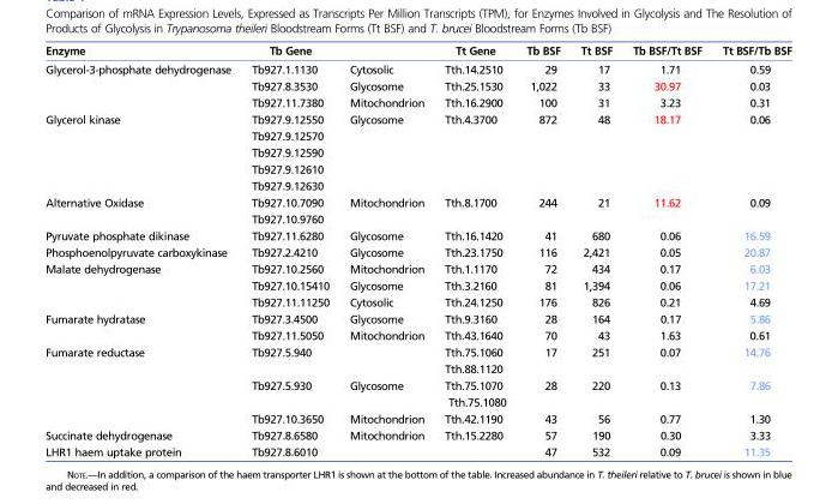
<table><thead><tr><td>Enzyme</td><td>Tb Gene</td><td></td><td>Tt Gene</td><td>Tb BSF</td><td>Tt BSF</td><td>Tb BSF/Tt BSF</td><td>Tt BSF/Tb BSF</td></tr></thead><tbody><tr><td rowspan="3">Glycerol-3-phosphate dehydrogenase</td><td>Tb927.1.1130</td><td>Cytosolic</td><td>Tth.14.2510</td><td>29</td><td>17</td><td>1.71</td><td>0.59</td></tr><tr><td>Tb927.8.3530</td><td>Glycosome</td><td>Tth.25.1530</td><td>1,022</td><td>33</td><td>30.97</td><td>0.03</td></tr><tr><td>Tb927.11.7380</td><td>Mitochondrion</td><td>Tth.16.2900</td><td>100</td><td>31</td><td>3.23</td><td>0.31</td></tr><tr><td rowspan="5">Glycerol kinase</td><td>Tb927.9.12550</td><td>Glycosome</td><td>Tth.4.3700</td><td>872</td><td>48</td><td>18.17</td><td>0.06</td></tr><tr><td>Tb927.9.12570</td><td></td><td></td><td></td><td></td><td></td><td></td></tr><tr><td>Tb927.9.12590</td><td></td><td></td><td></td><td></td><td></td><td></td></tr><tr><td>Tb927.9.12610</td><td></td><td></td><td></td><td></td><td></td><td></td></tr><tr><td>Tb927.9.12630</td><td></td><td></td><td></td><td></td><td></td><td></td></tr><tr><td rowspan="2">Alternative Oxidase</td><td>Tb927.10.7090</td><td>Mitochondrion</td><td>Tth.8.1700</td><td>244</td><td>21</td><td>11.62</td><td>0.09</td></tr><tr><td>Tb927.10.9760</td><td></td><td></td><td></td><td></td><td></td><td></td></tr><tr><td>Pyruvate phosphate dikinase</td><td>Tb927.11.6280</td><td>Glycosome</td><td>Tth.16.1420</td><td>41</td><td>680</td><td>0.06</td><td>16.59</td></tr><tr><td>Phosphoenolpyruvate carboxykinase</td><td>Tb927.2.4210</td><td>Glycosome</td><td>Tth.23.1750</td><td>116</td><td>2,421</td><td>0.05</td><td>20.87</td></tr><tr><td rowspan="3">Malate dehydrogenase</td><td>Tb927.10.2560</td><td>Mitochondrion</td><td>Tth.1.1170</td><td>72</td><td>434</td><td>0.17</td><td>6.03</td></tr><tr><td>Tb927.10.15410</td><td>Glycosome</td><td>Tth.3.2160</td><td>81</td><td>1,394</td><td>0.06</td><td>17.21</td></tr><tr><td>Tb927.11.11250</td><td>Cytosolic</td><td>Tth.24.1250</td><td>176</td><td>826</td><td>0.21</td><td>4.69</td></tr><tr><td rowspan="2">Fumarate hydratase</td><td>Tb927.3.4500</td><td>Glycosome</td><td>Tth.9.3160</td><td>28</td><td>164</td><td>0.17</td><td>5.86</td></tr><tr><td>Tb927.11.5050</td><td>Mitochondrion</td><td>Tth.43.1640</td><td>70</td><td>43</td><td>1.63</td><td>0.61</td></tr><tr><td rowspan="5">Fumarate reductase</td><td>Tb927.5.940</td><td></td><td>Tth.75.1060</td><td>17</td><td>251</td><td>0.07</td><td>14.76</td></tr><tr><td></td><td></td><td>Tth.88.1120</td><td></td><td></td><td></td><td></td></tr><tr><td>Tb927.5.930</td><td>Glycosome</td><td>Tth.75.1070</td><td>28</td><td>220</td><td>0.13</td><td>7.86</td></tr><tr><td></td><td></td><td>Tth.75.1080</td><td></td><td></td><td></td><td></td></tr><tr><td>Tb927.10.3650</td><td>Mitochondrion</td><td>Tth.42.1190</td><td>43</td><td>56</td><td>0.77</td><td>1.30</td></tr><tr><td>Succinate dehydrogenase</td><td>Tb927.8.6580</td><td>Mitochondrion</td><td>Tth.15.2280</td><td>57</td><td>190</td><td>0.30</td><td>3.33</td></tr><tr><td>LHR1 haem uptake protein</td><td>Tb927.8.6010</td><td></td><td></td><td>47</td><td>532</td><td>0.09</td><td>11.35</td></tr></tbody></table>